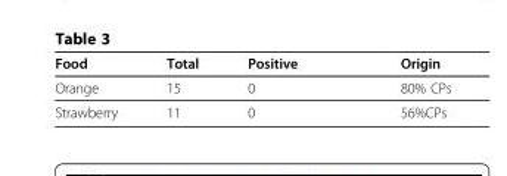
<table><thead><tr><td>Food</td><td>Total</td><td>Positive</td><td>Origin</td></tr></thead><tbody><tr><td>Orange</td><td>15</td><td>0</td><td>80% CPs</td></tr><tr><td>Strawberry</td><td>11</td><td>0</td><td>56%CPs</td></tr></tbody></table>